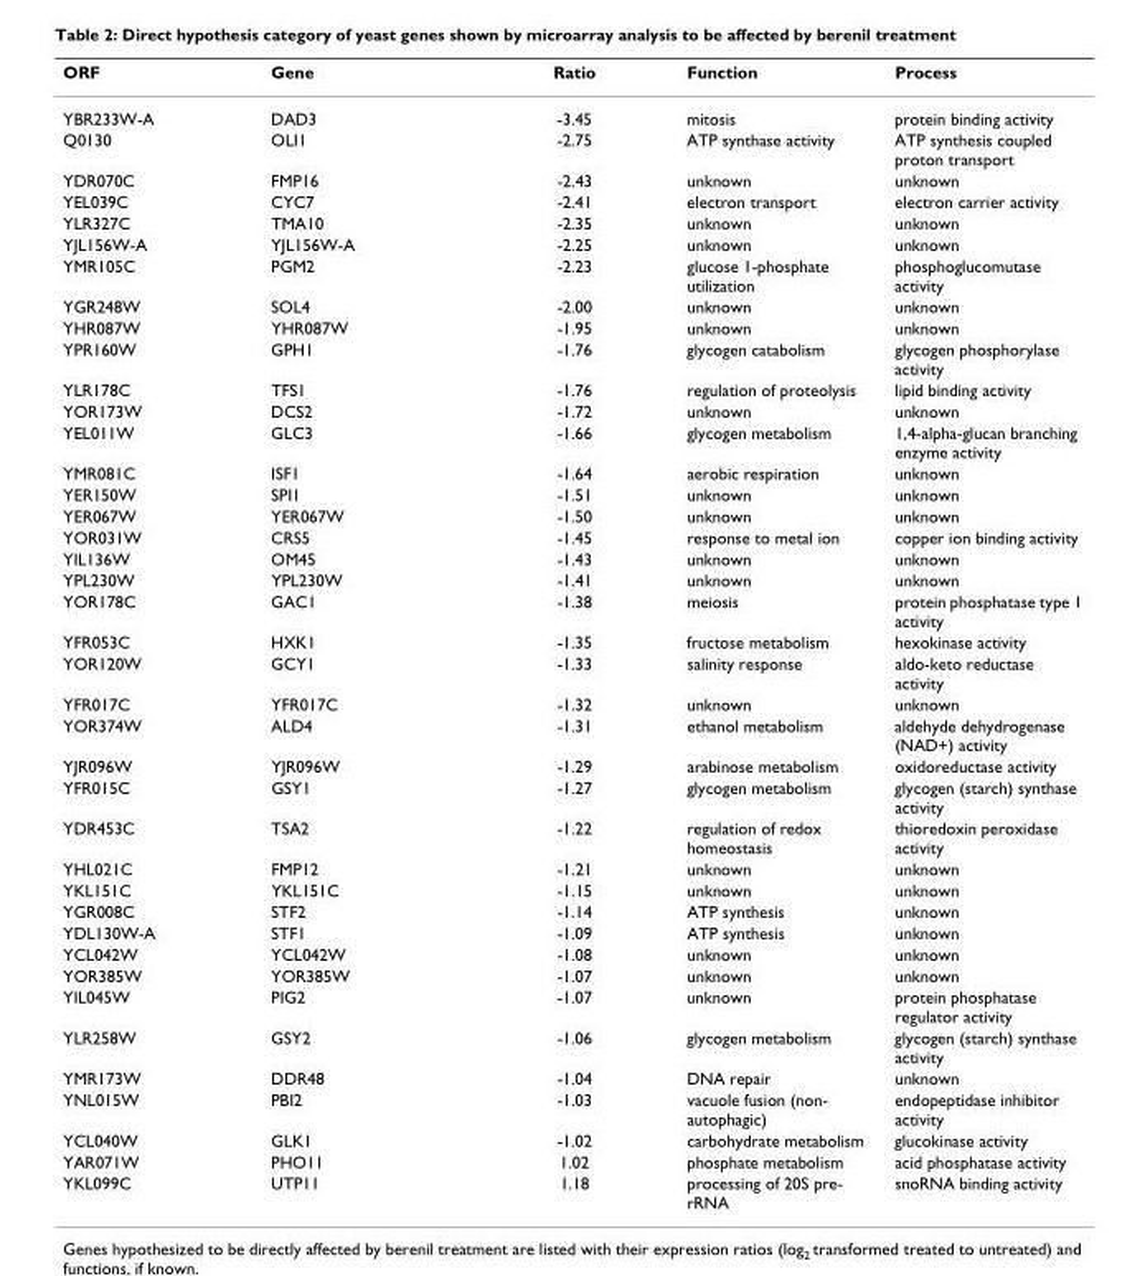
<table><thead><tr><td>ORF</td><td>Gene</td><td>Ratio</td><td>Function</td><td>Process</td></tr></thead><tbody><tr><td>YBR233W-A</td><td>DAD3</td><td>-3.45</td><td>mitosis</td><td>protein binding activity</td></tr><tr><td>Q0130</td><td>OLI1</td><td>-2.75</td><td>ATP synthase activity</td><td>ATP synthesis coupled proton transport</td></tr><tr><td>YDR070C</td><td>FMP16</td><td>-2.43</td><td>unknown</td><td>unknown</td></tr><tr><td>YEL039C</td><td>CYC7</td><td>-2.41</td><td>electron transport</td><td>electron carrier activity</td></tr><tr><td>YLR327C</td><td>TMA10</td><td>-2.35</td><td>unknown</td><td>unknown</td></tr><tr><td>YJL156W-A</td><td>YJL156W-A</td><td>-2.25</td><td>unknown</td><td>unknown</td></tr><tr><td>YMR105C</td><td>PGM2</td><td>-2.23</td><td>glucose 1-phosphate utilization</td><td>phosphoglucomutase activity</td></tr><tr><td>YGR248W</td><td>SOL4</td><td>-2.00</td><td>unknown</td><td>unknown</td></tr><tr><td>YHR087W</td><td>YHR087W</td><td>-1.95</td><td>unknown</td><td>unknown</td></tr><tr><td>YPR160W</td><td>GPH1</td><td>-1.76</td><td>glycogen catabolism</td><td>glycogen phosphorylase activity</td></tr><tr><td>YLR178C</td><td>TFS1</td><td>-1.76</td><td>regulation of proteolysis</td><td>lipid binding activity</td></tr><tr><td>YOR173W</td><td>DCS2</td><td>-1.72</td><td>unknown</td><td>unknown</td></tr><tr><td>YEL011W</td><td>GLC3</td><td>-1.66</td><td>glycogen metabolism</td><td>1,4-alpha-glucan branching enzyme activity</td></tr><tr><td>YMR081C</td><td>ISF1</td><td>-1.64</td><td>aerobic respiration</td><td>unknown</td></tr><tr><td>YER150W</td><td>SPI1</td><td>-1.51</td><td>unknown</td><td>unknown</td></tr><tr><td>YER067W</td><td>YER067W</td><td>-1.50</td><td>unknown</td><td>unknown</td></tr><tr><td>YOR031W</td><td>CRS5</td><td>-1.45</td><td>response to metal ion</td><td>copper ion binding activity</td></tr><tr><td>YIL136W</td><td>OM45</td><td>-1.43</td><td>unknown</td><td>unknown</td></tr><tr><td>YPL230W</td><td>YPL230W</td><td>-1.41</td><td>unknown</td><td>unknown</td></tr><tr><td>YOR178C</td><td>GAC1</td><td>-1.38</td><td>meiosis</td><td>protein phosphatase type 1 activity</td></tr><tr><td>YFR053C</td><td>HXK1</td><td>-1.35</td><td>fructose metabolism</td><td>hexokinase activity</td></tr><tr><td>YOR120W</td><td>GCY1</td><td>-1.33</td><td>salinity response</td><td>aldo-keto reductase activity</td></tr><tr><td>YFR017C</td><td>YFR017C</td><td>-1.32</td><td>unknown</td><td>unknown</td></tr><tr><td>YOR374W</td><td>ALD4</td><td>-1.31</td><td>ethanol metabolism</td><td>aldehyde dehydrogenase (NAD+) activity</td></tr><tr><td>YJR096W</td><td>YJR096W</td><td>-1.29</td><td>arabinose metabolism</td><td>oxidoreductase activity</td></tr><tr><td>YFR015C</td><td>GSY1</td><td>-1.27</td><td>glycogen metabolism</td><td>glycogen (starch) synthase activity</td></tr><tr><td>YDR453C</td><td>TSA2</td><td>-1.22</td><td>regulation of redox homeostasis</td><td>thioredoxin peroxidase activity</td></tr><tr><td>YHL021C</td><td>FMP12</td><td>-1.21</td><td>unknown</td><td>unknown</td></tr><tr><td>YKL151C</td><td>YKL151C</td><td>-1.15</td><td>unknown</td><td>unknown</td></tr><tr><td>YGR008C</td><td>STF2</td><td>-1.14</td><td>ATP synthesis</td><td>unknown</td></tr><tr><td>YDL130W-A</td><td>STF1</td><td>-1.09</td><td>ATP synthesis</td><td>unknown</td></tr><tr><td>YCL042W</td><td>YCL042W</td><td>-1.08</td><td>unknown</td><td>unknown</td></tr><tr><td>YOR385W</td><td>YOR385W</td><td>-1.07</td><td>unknown</td><td>unknown</td></tr><tr><td>YIL045W</td><td>PIG2</td><td>-1.07</td><td>unknown</td><td>protein phosphatase regulator activity</td></tr><tr><td>YLR258W</td><td>GSY2</td><td>-1.06</td><td>glycogen metabolism</td><td>glycogen (starch) synthase activity</td></tr><tr><td>YMR173W</td><td>DDR48</td><td>-1.04</td><td>DNA repair</td><td>unknown</td></tr><tr><td>YNL015W</td><td>PBI2</td><td>-1.03</td><td>vacuole fusion (non- autophagic)</td><td>endopeptidase inhibitor activity</td></tr><tr><td>YCL040W</td><td>GLK1</td><td>-1.02</td><td>carbohydrate metabolism</td><td>glucokinase activity</td></tr><tr><td>YAR071W</td><td>PHO11</td><td>1.02</td><td>phosphate metabolism</td><td>acid phosphatase activity</td></tr><tr><td>YKL099C</td><td>UTP11</td><td>1.18</td><td>processing of 20S pre- rRNA</td><td>snoRNA binding activity</td></tr></tbody></table>